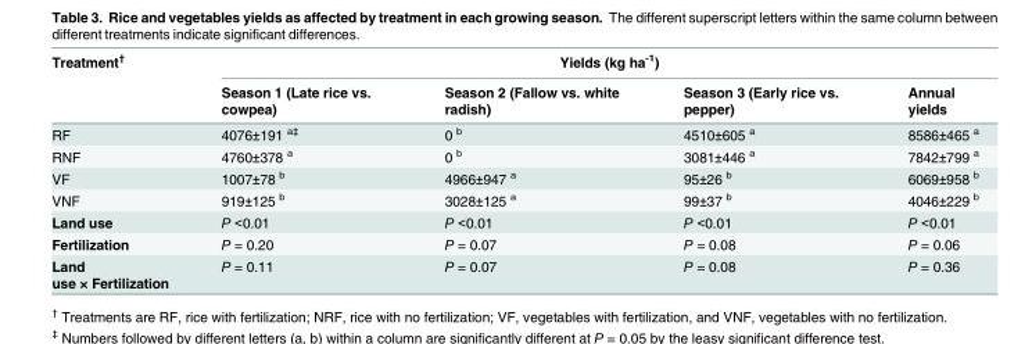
<table><thead><tr><td rowspan="2">Treatment<sup>†</sup></td><td colspan="4">Yields (kg ha<sup>-1</sup>)</td></tr><tr><td>Season 1 (Late rice vs. cowpea)</td><td>Season 2 (Fallow vs. white radish)</td><td>Season 3 (Early rice vs. pepper)</td><td>Annual yields</td></tr></thead><tbody><tr><td>RF</td><td>4076±191 <sup>a‡</sup></td><td>0 <sup>b</sup></td><td>4510±605 <sup>a</sup></td><td>8586±465 <sup>a</sup></td></tr><tr><td>RNF</td><td>4760±378 <sup>a</sup></td><td>0 <sup>b</sup></td><td>3081±446 <sup>a</sup></td><td>7842±799 <sup>a</sup></td></tr><tr><td>VF</td><td>1007±78 <sup>b</sup></td><td>4966±947 <sup>a</sup></td><td>95±26 <sup>b</sup></td><td>6069±958 <sup>b</sup></td></tr><tr><td>VNF</td><td>919±125 <sup>b</sup></td><td>3028±125 <sup>a</sup></td><td>99±37 <sup>b</sup></td><td>4046±229 <sup>b</sup></td></tr><tr><td>Land use</td><td>P &lt;0.01</td><td>P &lt;0.01</td><td>P &lt;0.01</td><td>P &lt;0.01</td></tr><tr><td>Fertilization</td><td>P = 0.20</td><td>P = 0.07</td><td>P = 0.08</td><td>P = 0.06</td></tr><tr><td>Land use × Fertilization</td><td>P = 0.11</td><td>P = 0.07</td><td>P = 0.08</td><td>P = 0.36</td></tr></tbody></table>